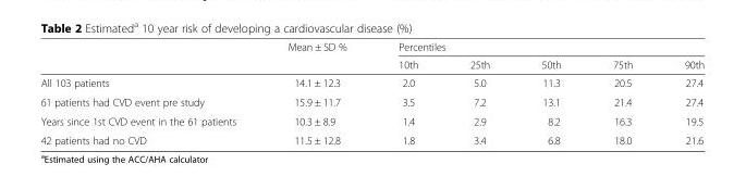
<table><thead><tr><td rowspan="2"></td><td rowspan="2">Mean ± SD %</td><td colspan="5">Percentiles</td></tr><tr><td>10th</td><td>25th</td><td>50th</td><td>75th</td><td>90th</td></tr></thead><tbody><tr><td>All 103 patients</td><td>14.1 ± 12.3</td><td>2.0</td><td>5.0</td><td>11.3</td><td>20.5</td><td>27.4</td></tr><tr><td>61 patients had CVD event pre study</td><td>15.9 ± 11.7</td><td>3.5</td><td>7.2</td><td>13.1</td><td>21.4</td><td>27.4</td></tr><tr><td>Years since 1st CVD event in the 61 patients</td><td>10.3 ± 8.9</td><td>1.4</td><td>2.9</td><td>8.2</td><td>16.3</td><td>19.5</td></tr><tr><td>42 patients had no CVD</td><td>11.5 ± 12.8</td><td>1.8</td><td>3.4</td><td>6.8</td><td>18.0</td><td>21.6</td></tr></tbody></table>